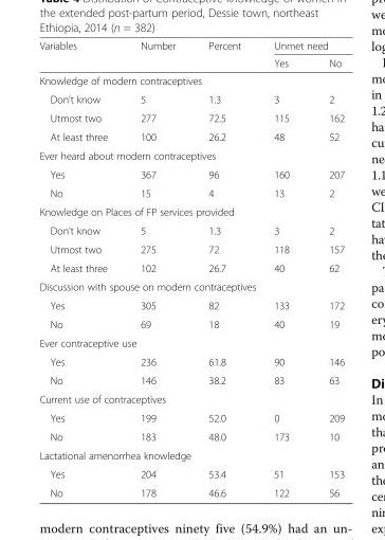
<table><thead><tr><td rowspan="2">Variables</td><td rowspan="2">Number</td><td rowspan="2">Percent</td><td colspan="2">Unmet need</td></tr><tr><td>Yes</td><td>No</td></tr></thead><tbody><tr><td colspan="5">Knowledge of modern contraceptives</td></tr><tr><td>Don’t know</td><td>5</td><td>1.3</td><td>3</td><td>2</td></tr><tr><td>Utmost two</td><td>277</td><td>72.5</td><td>115</td><td>162</td></tr><tr><td>At least three</td><td>100</td><td>26.2</td><td>48</td><td>52</td></tr><tr><td colspan="5">Ever heard about modern contraceptives</td></tr><tr><td>Yes</td><td>367</td><td>96</td><td>160</td><td>207</td></tr><tr><td>No</td><td>15</td><td>4</td><td>13</td><td>2</td></tr><tr><td colspan="5">Knowledge on Places of FP services provided</td></tr><tr><td>Don’t know</td><td>5</td><td>1.3</td><td>3</td><td>2</td></tr><tr><td>Utmost two</td><td>275</td><td>72</td><td>118</td><td>157</td></tr><tr><td>At least three</td><td>102</td><td>26.7</td><td>40</td><td>62</td></tr><tr><td colspan="5">Discussion with spouse on modern contraceptives</td></tr><tr><td>Yes</td><td>305</td><td>82</td><td>133</td><td>172</td></tr><tr><td>No</td><td>69</td><td>18</td><td>40</td><td>19</td></tr><tr><td colspan="5">Ever contraceptive use</td></tr><tr><td>Yes</td><td>236</td><td>61.8</td><td>90</td><td>146</td></tr><tr><td>No</td><td>146</td><td>38.2</td><td>83</td><td>63</td></tr><tr><td colspan="5">Current use of contraceptives</td></tr><tr><td>Yes</td><td>199</td><td>52.0</td><td>0</td><td>209</td></tr><tr><td>No</td><td>183</td><td>48.0</td><td>173</td><td>10</td></tr><tr><td colspan="5">Lactational amenorrhea knowledge</td></tr><tr><td>Yes</td><td>204</td><td>53.4</td><td>51</td><td>153</td></tr><tr><td>No</td><td>178</td><td>46.6</td><td>122</td><td>56</td></tr></tbody></table>